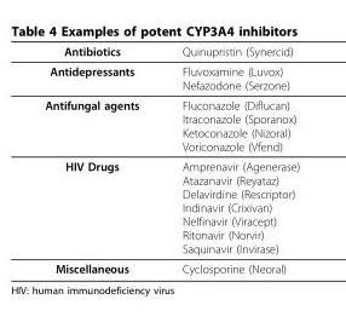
<table><thead><tr><td>Antibiotics</td><td>Quinupristin (Synercid)</td></tr></thead><tbody><tr><td>Antidepressants</td><td>Fluvoxamine (Luvox) Nefazodone (Serzone)</td></tr><tr><td>Antifungal agents</td><td>Fluconazole (Diflucan) Itraconazole (Sporanox) Ketoconazole (Nizoral) Voriconazole (Vfend)</td></tr><tr><td>HIV Drugs</td><td>Amprenavir (Agenerase) Atazanavir (Reyataz) Delavirdine (Rescriptor) Indinavir (Crixivan) Nelfinavir (Viracept) Ritonavir (Norvir) Saquinavir (Invirase)</td></tr><tr><td>Miscellaneous</td><td>Cyclosporine (Neoral)</td></tr></tbody></table>